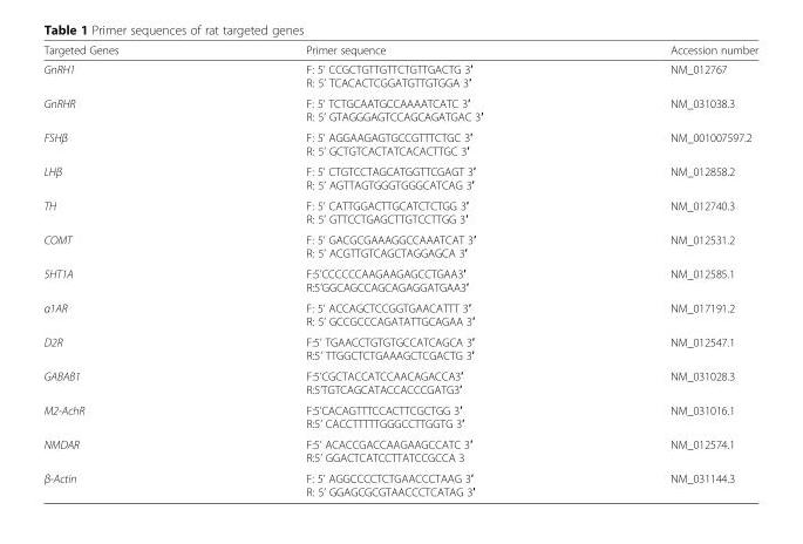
<table><thead><tr><td>Targeted Genes</td><td>Primer sequence</td><td>Accession number</td></tr></thead><tbody><tr><td>GnRH1</td><td>F: 5’ CCGCTGTTGTTCTGTTGACTG 3′ R: 5’ TCACACTCGGATGTTGTGGA 3′</td><td>NM_012767</td></tr><tr><td>GnRHR</td><td>F: 5’ TCTGCAATGCCAAAATCATC 3′ R: 5’ GTAGGGAGTCCAGCAGATGAC 3′</td><td>NM_031038.3</td></tr><tr><td>FSHβ</td><td>F: 5’ AGGAAGAGTGCCGTTTCTGC 3′ R: 5’ GCTGTCACTATCACACTTGC 3′</td><td>NM_001007597.2</td></tr><tr><td>LHβ</td><td>F: 5’ CTGTCCTAGCATGGTTCGAGT 3′ R: 5’ AGTTAGTGGGTGGGCATCAG 3′</td><td>NM_012858.2</td></tr><tr><td>TH</td><td>F: 5’ CATTGGACTTGCATCTCTGG 3′ R: 5’ GTTCCTGAGCTTGTCCTTGG 3′</td><td>NM_012740.3</td></tr><tr><td>COMT</td><td>F: 5’ GACGCGAAAGGCCAAATCAT 3′ R: 5’ ACGTTGTCAGCTAGGAGCA 3′</td><td>NM_012531.2</td></tr><tr><td>5HT1A</td><td>F:5’CCCCCCAAGAAGAGCCTGAA3′ R:5’GGCAGCCAGCAGAGGATGAA3′</td><td>NM_012585.1</td></tr><tr><td>α1AR</td><td>F: 5’ ACCAGCTCCGGTGAACATTT 3′ R: 5’ GCCGCCCAGATATTGCAGAA 3′</td><td>NM_017191.2</td></tr><tr><td>D2R</td><td>F:5’ TGAACCTGTGTGCCATCAGCA 3′ R:5’ TTGGCTCTGAAAGCTCGACTG 3′</td><td>NM_012547.1</td></tr><tr><td>GABAB1</td><td>F:5’CGCTACCATCCAACAGACCA3′ R:5’TGTCAGCATACCACCCGATG3′</td><td>NM_031028.3</td></tr><tr><td>M2-AchR</td><td>F:5’CACAGTTTCCACTTCGCTGG 3′ R:5’ CACCTTTTTGGGCCTTGGTG 3′</td><td>NM_031016.1</td></tr><tr><td>NMDAR</td><td>F:5’ ACACCGACCAAGAAGCCATC 3′ R:5’ GGACTCATCCTTATCCGCCA 3</td><td>NM_012574.1</td></tr><tr><td>β-Actin</td><td>F: 5’ AGGCCCCTCTGAACCCTAAG 3′ R: 5’ GGAGCGCGTAACCCTCATAG 3′</td><td>NM_031144.3</td></tr></tbody></table>